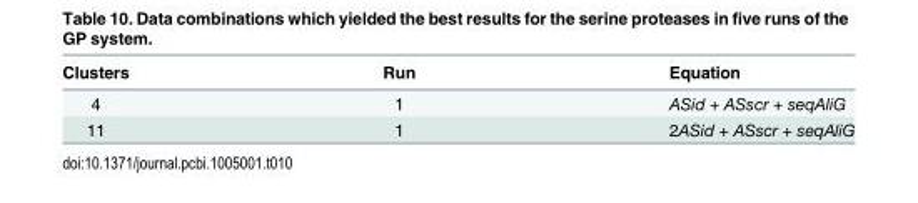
<table><thead><tr><td>Clusters</td><td>Run</td><td>Equation</td></tr></thead><tbody><tr><td>4</td><td>1</td><td>ASid + ASscr + seqAliG</td></tr><tr><td>11</td><td>1</td><td>2ASid + ASscr + seqAliG</td></tr></tbody></table>